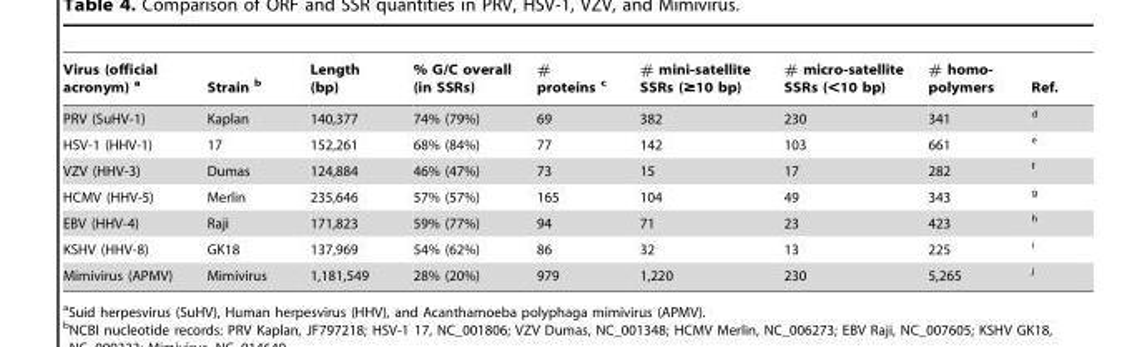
<table><thead><tr><td>Virus (official acronym) a</td><td>Strain b</td><td>Length (bp)</td><td>% G/C overall (in SSRs)</td><td># proteins c</td><td># mini-satellite SSRs (≥10 bp)</td><td># micro-satellite SSRs (&lt;10 bp)</td><td># homo- polymers</td><td>Ref.</td></tr></thead><tbody><tr><td>PRV (SuHV-1)</td><td>Kaplan</td><td>140,377</td><td>74% (79%)</td><td>69</td><td>382</td><td>230</td><td>341</td><td>d</td></tr><tr><td>HSV-1 (HHV-1)</td><td>17</td><td>152,261</td><td>68% (84%)</td><td>77</td><td>142</td><td>103</td><td>661</td><td><sup>e</sup></td></tr><tr><td>VZV (HHV-3)</td><td>Dumas</td><td>124,884</td><td>46% (47%)</td><td>73</td><td>15</td><td>17</td><td>282</td><td><sup>f</sup></td></tr><tr><td>HCMV (HHV-5)</td><td>Merlin</td><td>235,646</td><td>57% (57%)</td><td>165</td><td>104</td><td>49</td><td>343</td><td><sup>g</sup></td></tr><tr><td>EBV (HHV-4)</td><td>Raji</td><td>171,823</td><td>59% (77%)</td><td>94</td><td>71</td><td>23</td><td>423</td><td><sup>h</sup></td></tr><tr><td>KSHV (HHV-8)</td><td>GK18</td><td>137,969</td><td>54% (62%)</td><td>86</td><td>32</td><td>13</td><td>225</td><td><sup>i</sup></td></tr><tr><td>Mimivirus (APMV)</td><td>Mimivirus</td><td>1,181,549</td><td>28% (20%)</td><td>979</td><td>1,220</td><td>230</td><td>5,265</td><td><sup>j</sup></td></tr></tbody></table>